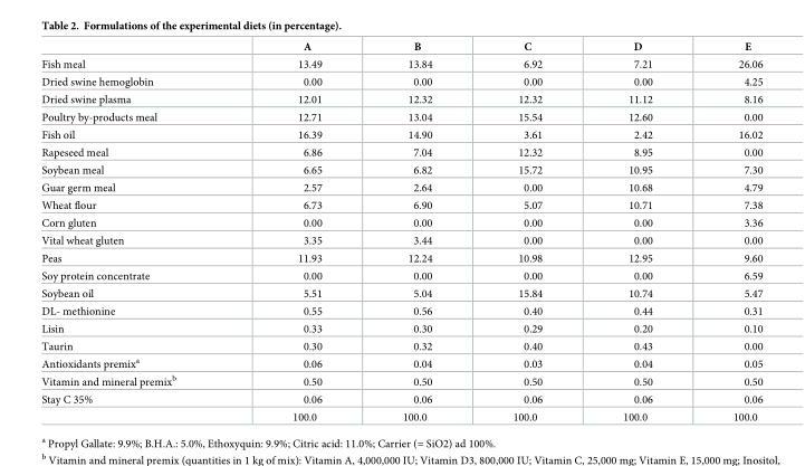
<table><thead><tr><td></td><td>A</td><td>B</td><td>C</td><td>D</td><td>E</td></tr></thead><tbody><tr><td>Fish meal</td><td>13.49</td><td>13.84</td><td>6.92</td><td>7.21</td><td>26.06</td></tr><tr><td>Dried swine hemoglobin</td><td>0.00</td><td>0.00</td><td>0.00</td><td>0.00</td><td>4.25</td></tr><tr><td>Dried swine plasma</td><td>12.01</td><td>12.32</td><td>12.32</td><td>11.12</td><td>8.16</td></tr><tr><td>Poultry by-products meal</td><td>12.71</td><td>13.04</td><td>15.54</td><td>12.60</td><td>0.00</td></tr><tr><td>Fish oil</td><td>16.39</td><td>14.90</td><td>3.61</td><td>2.42</td><td>16.02</td></tr><tr><td>Rapeseed meal</td><td>6.86</td><td>7.04</td><td>12.32</td><td>8.95</td><td>0.00</td></tr><tr><td>Soybean meal</td><td>6.65</td><td>6.82</td><td>15.72</td><td>10.95</td><td>7.30</td></tr><tr><td>Guar germ meal</td><td>2.57</td><td>2.64</td><td>0.00</td><td>10.68</td><td>4.79</td></tr><tr><td>Wheat flour</td><td>6.73</td><td>6.90</td><td>5.07</td><td>10.71</td><td>7.38</td></tr><tr><td>Corn gluten</td><td>0.00</td><td>0.00</td><td>0.00</td><td>0.00</td><td>3.36</td></tr><tr><td>Vital wheat gluten</td><td>3.35</td><td>3.44</td><td>0.00</td><td>0.00</td><td>0.00</td></tr><tr><td>Peas</td><td>11.93</td><td>12.24</td><td>10.98</td><td>12.95</td><td>9.60</td></tr><tr><td>Soy protein concentrate</td><td>0.00</td><td>0.00</td><td>0.00</td><td>0.00</td><td>6.59</td></tr><tr><td>Soybean oil</td><td>5.51</td><td>5.04</td><td>15.84</td><td>10.74</td><td>5.47</td></tr><tr><td>DL- methionine</td><td>0.55</td><td>0.56</td><td>0.40</td><td>0.44</td><td>0.31</td></tr><tr><td>Lisin</td><td>0.33</td><td>0.30</td><td>0.29</td><td>0.20</td><td>0.10</td></tr><tr><td>Taurin</td><td>0.30</td><td>0.32</td><td>0.40</td><td>0.43</td><td>0.00</td></tr><tr><td>Antioxidants premix<sup>a</sup></td><td>0.06</td><td>0.04</td><td>0.03</td><td>0.04</td><td>0.05</td></tr><tr><td>Vitamin and mineral premix<sup>b</sup></td><td>0.50</td><td>0.50</td><td>0.50</td><td>0.50</td><td>0.50</td></tr><tr><td rowspan="2">Stay C 35%</td><td>0.06</td><td>0.06</td><td>0.06</td><td>0.06</td><td>0.06</td></tr><tr><td>100.0</td><td>100.0</td><td>100.0</td><td>100.0</td><td>100.0</td></tr></tbody></table>